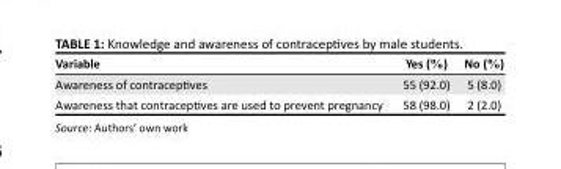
<table><thead><tr><td>Variable</td><td>Yes (%)</td><td>No (%)</td></tr></thead><tbody><tr><td>Awareness of contraceptives</td><td>55 (92.0)</td><td>5 (8.0)</td></tr><tr><td>Awareness that contraceptives are used to prevent pregnancy</td><td>58 (98.0)</td><td>2 (2.0)</td></tr></tbody></table>